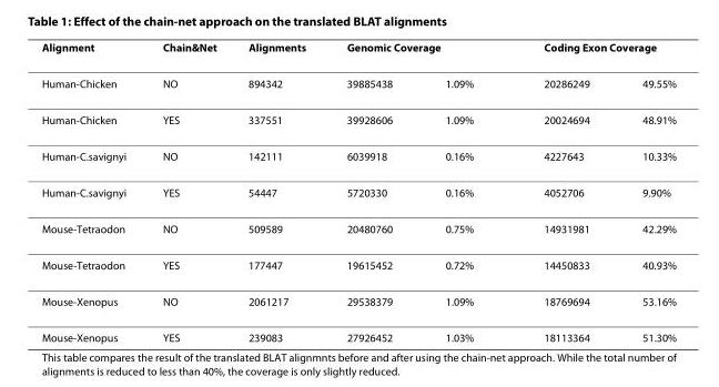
<table><thead><tr><td rowspan="2">Alignment Human-Chicken</td><td rowspan="2">Chain&amp;Net NO</td><td rowspan="2">Alignments 894342</td><td colspan="2">Genomic Coverage</td><td colspan="2">Coding Exon Coverage</td></tr><tr><td>39885438</td><td>1.09%</td><td>20286249</td><td>49.55%</td></tr></thead><tbody><tr><td>Human-Chicken</td><td>YES</td><td>337551</td><td>39928606</td><td>1.09%</td><td>20024694</td><td>48.91%</td></tr><tr><td>Human-C.savignyi</td><td>NO</td><td>142111</td><td>6039918</td><td>0.16%</td><td>4227643</td><td>10.33%</td></tr><tr><td>Human-C.savignyi</td><td>YES</td><td>54447</td><td>5720330</td><td>0.16%</td><td>4052706</td><td>9.90%</td></tr><tr><td>Mouse-Tetraodon</td><td>NO</td><td>509589</td><td>20480760</td><td>0.75%</td><td>14931981</td><td>42.29%</td></tr><tr><td>Mouse-Tetraodon</td><td>YES</td><td>177447</td><td>19615452</td><td>0.72%</td><td>14450833</td><td>40.93%</td></tr><tr><td>Mouse-Xenopus</td><td>NO</td><td>2061217</td><td>29538379</td><td>1.09%</td><td>18769694</td><td>53.16%</td></tr><tr><td>Mouse-Xenopus</td><td>YES</td><td>239083</td><td>27926452</td><td>1.03%</td><td>18113364</td><td>51.30%</td></tr></tbody></table>